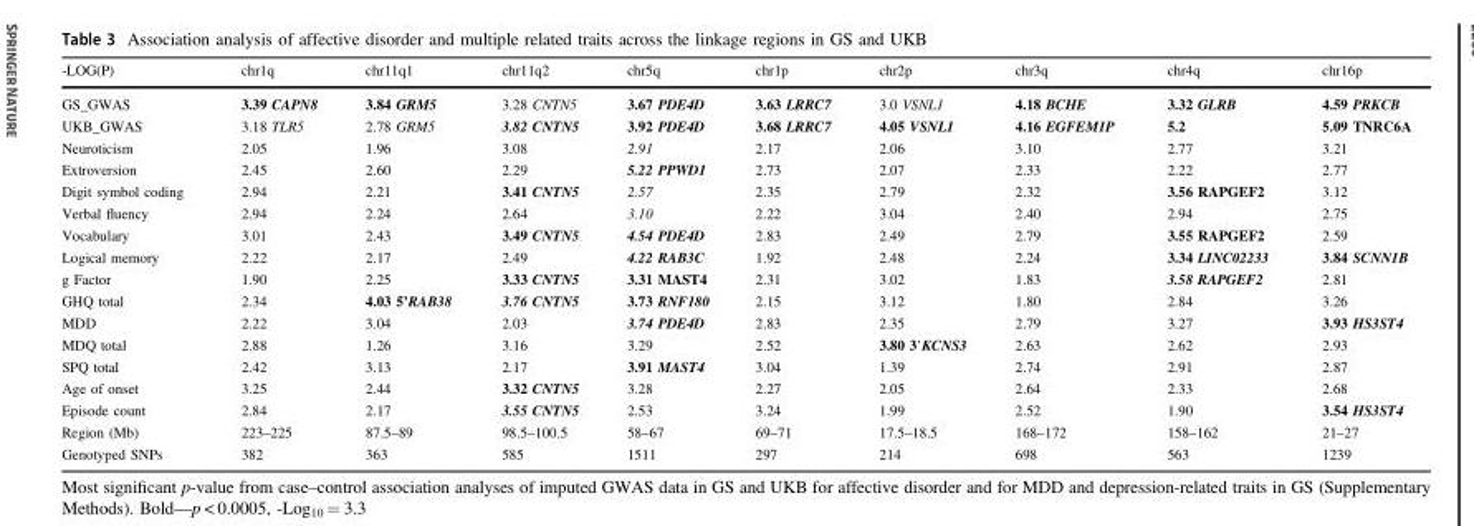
<table><thead><tr><td>-LOG(P)</td><td>chr1q</td><td>chr11q1</td><td>chr11q2</td><td>chr5q</td><td>chr1p</td><td>chr2p</td><td>chr3q</td><td>chr4q</td><td>chr16p</td></tr></thead><tbody><tr><td>GS_GWAS</td><td>3.39 CAPN8</td><td>3.84 GRM5</td><td>3.28 CNTN5</td><td>3.67 PDE4D</td><td>3.63 LRRC7</td><td>3.0 VSNL1</td><td>4.18 BCHE</td><td>3.32 GLRB</td><td>4.59 PRKCB</td></tr><tr><td>UKB_GWAS</td><td>3.18 TLR5</td><td>2.78 GRM5</td><td>3.82 CNTN5</td><td>3.92 PDE4D</td><td>3.68 LRRC7</td><td>4.05 VSNL1</td><td>4.16 EGFEM1P</td><td>5.2</td><td>5.09 TNRC6A</td></tr><tr><td>Neuroticism</td><td>2.05</td><td>1.96</td><td>3.08</td><td>2.91</td><td>2.17</td><td>2.06</td><td>3.10</td><td>2.77</td><td>3.21</td></tr><tr><td>Extroversion</td><td>2.45</td><td>2.60</td><td>2.29</td><td>5.22 PPWD1</td><td>2.73</td><td>2.07</td><td>2.33</td><td>2.22</td><td>2.77</td></tr><tr><td>Digit symbol coding</td><td>2.94</td><td>2.21</td><td>3.41 CNTN5</td><td>2.57</td><td>2.35</td><td>2.79</td><td>2.32</td><td>3.56 RAPGEF2</td><td>3.12</td></tr><tr><td>Verbal fluency</td><td>2.94</td><td>2.24</td><td>2.64</td><td>3.10</td><td>2.22</td><td>3.04</td><td>2.40</td><td>2.94</td><td>2.75</td></tr><tr><td>Vocabulary</td><td>3.01</td><td>2.43</td><td>3.49 CNTN5</td><td>4.54 PDE4D</td><td>2.83</td><td>2.49</td><td>2.79</td><td>3.55 RAPGEF2</td><td>2.59</td></tr><tr><td>Logical memory</td><td>2.22</td><td>2.17</td><td>2.49</td><td>4.22 RAB3C</td><td>1.92</td><td>2.48</td><td>2.24</td><td>3.34 LINC02233</td><td>3.84 SCNN1B</td></tr><tr><td>g Factor</td><td>1.90</td><td>2.25</td><td>3.33 CNTN5</td><td>3.31 MAST4</td><td>2.31</td><td>3.02</td><td>1.83</td><td>3.58 RAPGEF2</td><td>2.81</td></tr><tr><td>GHQ total</td><td>2.34</td><td>4.03 5’RAB38</td><td>3.76 CNTN5</td><td>3.73 RNF180</td><td>2.15</td><td>3.12</td><td>1.80</td><td>2.84</td><td>3.26</td></tr><tr><td>MDD</td><td>2.22</td><td>3.04</td><td>2.03</td><td>3.74 PDE4D</td><td>2.83</td><td>2.35</td><td>2.79</td><td>3.27</td><td>3.93 HS3ST4</td></tr><tr><td>MDQ total</td><td>2.88</td><td>1.26</td><td>3.16</td><td>3.29</td><td>2.52</td><td>3.80 3’KCNS3</td><td>2.63</td><td>2.62</td><td>2.93</td></tr><tr><td>SPQ total</td><td>2.42</td><td>3.13</td><td>2.17</td><td>3.91 MAST4</td><td>3.04</td><td>1.39</td><td>2.74</td><td>2.91</td><td>2.87</td></tr><tr><td>Age of onset</td><td>3.25</td><td>2.44</td><td>3.32 CNTN5</td><td>3.28</td><td>2.27</td><td>2.05</td><td>2.64</td><td>2.33</td><td>2.68</td></tr><tr><td>Episode count</td><td>2.84</td><td>2.17</td><td>3.55 CNTN5</td><td>2.53</td><td>3.24</td><td>1.99</td><td>2.52</td><td>1.90</td><td>3.54 HS3ST4</td></tr><tr><td>Region (Mb)</td><td>223–225</td><td>87.5–89</td><td>98.5–100.5</td><td>58–67</td><td>69–71</td><td>17.5–18.5</td><td>168–172</td><td>158–162</td><td>21–27</td></tr><tr><td>Genotyped SNPs</td><td>382</td><td>363</td><td>585</td><td>1511</td><td>297</td><td>214</td><td>698</td><td>563</td><td>1239</td></tr></tbody></table>